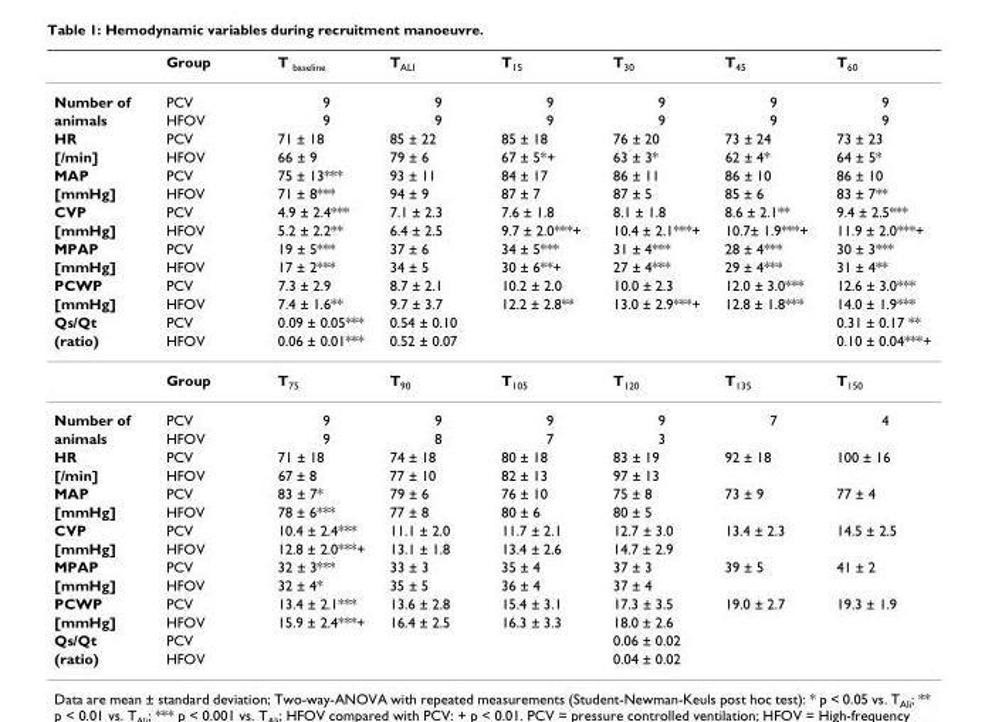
<table><thead><tr><td></td><td>Group</td><td>T <sub>baseline</sub></td><td>T<sub>ALI</sub></td><td>T<sub>15</sub></td><td>T<sub>30</sub></td><td>T<sub>45</sub></td><td>T<sub>60</sub></td></tr></thead><tbody><tr><td>Number of</td><td>PCV</td><td>9</td><td>9</td><td>9</td><td>9</td><td>9</td><td>9</td></tr><tr><td>animals</td><td>HFOV</td><td>9</td><td>9</td><td>9</td><td>9</td><td>9</td><td>9</td></tr><tr><td>HR</td><td>PCV</td><td>71 ± 18</td><td>85 ± 22</td><td>85 ± 18</td><td>76 ± 20</td><td>73 ± 24</td><td>73 ± 23</td></tr><tr><td>[/min]</td><td>HFOV</td><td>66 ± 9</td><td>79 ± 6</td><td>67 ± 5*+</td><td>63 ± 3*</td><td>62 ± 4*</td><td>64 ± 5*</td></tr><tr><td>MAP</td><td>PCV</td><td>75 ± 13***</td><td>93 ± 11</td><td>84 ± 17</td><td>86 ± 11</td><td>86 ± 10</td><td>86 ± 10</td></tr><tr><td>[mmHg]</td><td>HFOV</td><td>71 ± 8***</td><td>94 ± 9</td><td>87 ± 7</td><td>87 ± 5</td><td>85 ± 6</td><td>83 ± 7**</td></tr><tr><td>CVP</td><td>PCV</td><td>4.9 ± 2.4***</td><td>7.1 ± 2.3</td><td>7.6 ± 1.8</td><td>8.1 ± 1.8</td><td>8.6 ± 2.1**</td><td>9.4 ± 2.5***</td></tr><tr><td>[mmHg]</td><td>HFOV</td><td>5.2 ± 2.2**</td><td>6.4 ± 2.5</td><td>9.7 ± 2.0***+</td><td>10.4 ± 2.1***+</td><td>10.7± 1.9***+</td><td>11.9 ± 2.0***+</td></tr><tr><td>MPAP</td><td>PCV</td><td>19 ± 5***</td><td>37 ± 6</td><td>34 ± 5***</td><td>31 ± 4***</td><td>28 ± 4***</td><td>30 ± 3***</td></tr><tr><td>[mmHg]</td><td>HFOV</td><td>17 ± 2***</td><td>34 ± 5</td><td>30 ± 6**+</td><td>27 ± 4***</td><td>29 ± 4***</td><td>31 ± 4**</td></tr><tr><td>PCWP</td><td>PCV</td><td>7.3 ± 2.9</td><td>8.7 ± 2.1</td><td>10.2 ± 2.0</td><td>10.0 ± 2.3</td><td>12.0 ± 3.0***</td><td>12.6 ± 3.0***</td></tr><tr><td>[mmHg]</td><td>HFOV</td><td>7.4 ± 1.6**</td><td>9.7 ± 3.7</td><td>12.2 ± 2.8**</td><td>13.0 ± 2.9***+</td><td>12.8 ± 1.8***</td><td>14.0 ± 1.9***</td></tr><tr><td>Qs/Qt</td><td>PCV</td><td>0.09 ± 0.05***</td><td>0.54 ± 0.10</td><td></td><td></td><td></td><td>0.31 ± 0.17 **</td></tr><tr><td rowspan="2">(ratio)</td><td>HFOV</td><td>0.06 ± 0.01***</td><td>0.52 ± 0.07</td><td></td><td></td><td></td><td>0.10 ± 0.04***+</td></tr><tr><td>Group</td><td>T<sub>75</sub></td><td>T<sub>90</sub></td><td>T<sub>105</sub></td><td>T<sub>120</sub></td><td>T<sub>135</sub></td><td>T<sub>150</sub></td></tr><tr><td>Number of</td><td>PCV</td><td>9</td><td>9</td><td>9</td><td>9</td><td>7</td><td>4</td></tr><tr><td>animals</td><td>HFOV</td><td>9</td><td>8</td><td>7</td><td>3</td><td></td><td></td></tr><tr><td>HR</td><td>PCV</td><td>71 ± 18</td><td>74 ± 18</td><td>80 ± 18</td><td>83 ± 19</td><td>92 ± 18</td><td>100 ± 16</td></tr><tr><td>[/min]</td><td>HFOV</td><td>67 ± 8</td><td>77 ± 10</td><td>82 ± 13</td><td>97 ± 13</td><td></td><td></td></tr><tr><td>MAP</td><td>PCV</td><td>83 ± 7*</td><td>79 ± 6</td><td>76 ± 10</td><td>75 ± 8</td><td>73 ± 9</td><td>77 ± 4</td></tr><tr><td>[mmHg]</td><td>HFOV</td><td>78 ± 6***</td><td>77 ± 8</td><td>80 ± 6</td><td>80 ± 5</td><td></td><td></td></tr><tr><td>CVP</td><td>PCV</td><td>10.4 ± 2.4***</td><td>11.1 ± 2.0</td><td>11.7 ± 2.1</td><td>12.7 ± 3.0</td><td>13.4 ± 2.3</td><td>14.5 ± 2.5</td></tr><tr><td>[mmHg]</td><td>HFOV</td><td>12.8 ± 2.0***+</td><td>13.1 ± 1.8</td><td>13.4 ± 2.6</td><td>14.7 ± 2.9</td><td></td><td></td></tr><tr><td>MPAP</td><td>PCV</td><td>32 ± 3***</td><td>33 ± 3</td><td>35 ± 4</td><td>37 ± 3</td><td>39 ± 5</td><td>41 ± 2</td></tr><tr><td>[mmHg]</td><td>HFOV</td><td>32 ± 4*</td><td>35 ± 5</td><td>36 ± 4</td><td>37 ± 4</td><td></td><td></td></tr><tr><td>PCWP</td><td>PCV</td><td>13.4 ± 2.1***</td><td>13.6 ± 2.8</td><td>15.4 ± 3.1</td><td>17.3 ± 3.5</td><td>19.0 ± 2.7</td><td>19.3 ± 1.9</td></tr><tr><td>[mmHg]</td><td>HFOV</td><td>15.9 ± 2.4***+</td><td>16.4 ± 2.5</td><td>16.3 ± 3.3</td><td>18.0 ± 2.6</td><td></td><td></td></tr><tr><td>Qs/Qt</td><td>PCV</td><td></td><td></td><td></td><td>0.06 ± 0.02</td><td></td><td></td></tr><tr><td>(ratio)</td><td>HFOV</td><td></td><td></td><td></td><td>0.04 ± 0.02</td><td></td><td></td></tr></tbody></table>